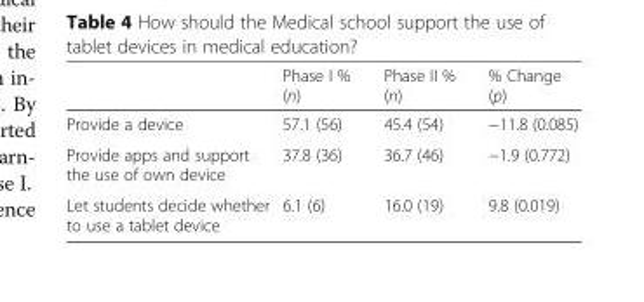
<table><thead><tr><td></td><td>Phase I % (n)</td><td>Phase II % (n)</td><td>% Change (p)</td></tr></thead><tbody><tr><td>Provide a device</td><td>57.1 (56)</td><td>45.4 (54)</td><td>−11.8 (0.085)</td></tr><tr><td>Provide apps and support the use of own device</td><td>37.8 (36)</td><td>36.7 (46)</td><td>−1.9 (0.772)</td></tr><tr><td>Let students decide whether to use a tablet device</td><td>6.1 (6)</td><td>16.0 (19)</td><td>9.8 (0.019)</td></tr></tbody></table>